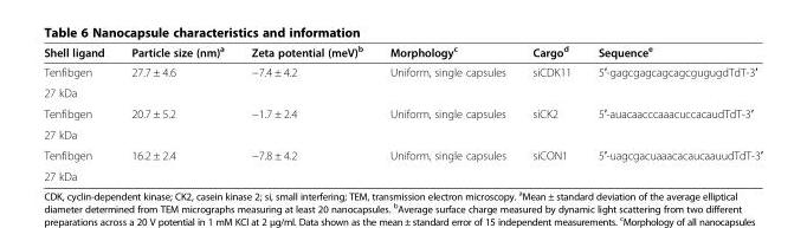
<table><thead><tr><td>Shell ligand</td><td>Particle size (nm)<sup>a</sup></td><td>Zeta potential (meV)<sup>b</sup></td><td>Morphology<sup>c</sup></td><td>Cargo<sup>d</sup></td><td>Sequence<sup>e</sup></td></tr></thead><tbody><tr><td>Tenfibgen</td><td rowspan="2">27.7 ± 4.6</td><td rowspan="2">−7.4 ± 4.2</td><td rowspan="2">Uniform, single capsules</td><td rowspan="2">siCDK11</td><td rowspan="2">5′-gagcgagcagcagcgugugdTdT-3′</td></tr><tr><td>27 kDa</td></tr><tr><td>Tenfibgen</td><td rowspan="2">20.7 ± 5.2</td><td rowspan="2">−1.7 ± 2.4</td><td rowspan="2">Uniform, single capsules</td><td rowspan="2">siCK2</td><td rowspan="2">5′-auacaacccaaacuccacaudTdT-3′</td></tr><tr><td>27 kDa</td></tr><tr><td>Tenfibgen</td><td rowspan="2">16.2 ± 2.4</td><td rowspan="2">−7.8 ± 4.2</td><td rowspan="2">Uniform, single capsules</td><td rowspan="2">siCON1</td><td rowspan="2">5′-uagcgacuaaacacaucaauudTdT-3′</td></tr><tr><td>27 kDa</td></tr></tbody></table>